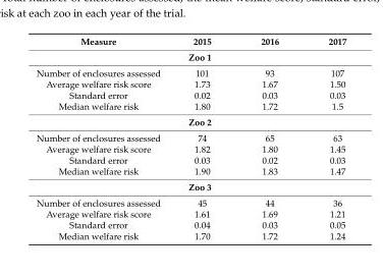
<table><thead><tr><td>Measure</td><td>2015</td><td>2016</td><td>2017</td></tr></thead><tbody><tr><td colspan="4">Zoo 1</td></tr><tr><td>Number of enclosures assessed</td><td>101</td><td>93</td><td>107</td></tr><tr><td>Average welfare risk score</td><td>1.73</td><td>1.67</td><td>1.50</td></tr><tr><td>Standard error</td><td>0.02</td><td>0.03</td><td>0.03</td></tr><tr><td>Median welfare risk</td><td>1.80</td><td>1.72</td><td>1.5</td></tr><tr><td colspan="4">Zoo 2</td></tr><tr><td>Number of enclosures assessed</td><td>74</td><td>65</td><td>63</td></tr><tr><td>Average welfare risk score</td><td>1.82</td><td>1.80</td><td>1.45</td></tr><tr><td>Standard error</td><td>0.03</td><td>0.02</td><td>0.03</td></tr><tr><td>Median welfare risk</td><td>1.90</td><td>1.83</td><td>1.47</td></tr><tr><td colspan="4">Zoo 3</td></tr><tr><td>Number of enclosures assessed</td><td>45</td><td>44</td><td>36</td></tr><tr><td>Average welfare risk score</td><td>1.61</td><td>1.69</td><td>1.21</td></tr><tr><td>Standard error</td><td>0.04</td><td>0.03</td><td>0.05</td></tr><tr><td>Median welfare risk</td><td>1.70</td><td>1.72</td><td>1.24</td></tr></tbody></table>